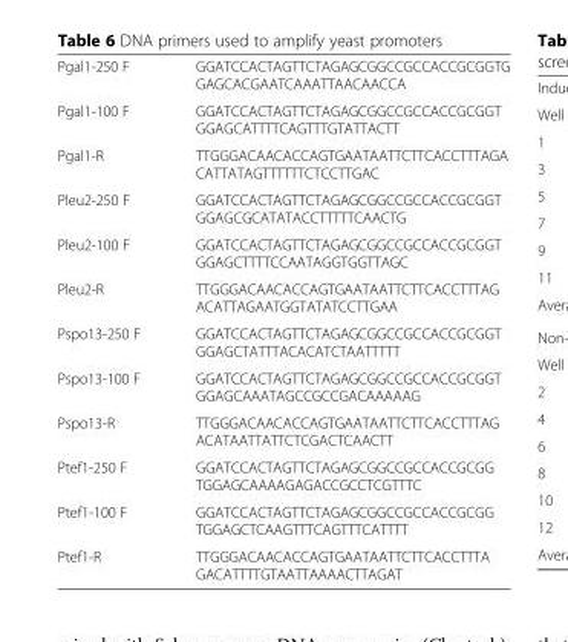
<table><tbody><tr><td>Pgal1-250 F</td><td>GGATCCACTAGTTCTAGAGCGGCCGCCACCGCGGTG GAGCACGAATCAAATTAACAACCA</td></tr><tr><td>Pgal1-100 F</td><td>GGATCCACTAGTTCTAGAGCGGCCGCCACCGCGGT GGAGCATTTTCAGTTTGTATTACTT</td></tr><tr><td>Pgal1-R</td><td>TTGGGACAACACCAGTGAATAATTCTTCACCTTTAGA CATTATAGTTTTTTCTCCTTGAC</td></tr><tr><td>Pleu2-250 F</td><td>GGATCCACTAGTTCTAGAGCGGCCGCCACCGCGGT GGAGCGCATATACCTTTTTCAACTG</td></tr><tr><td>Pleu2-100 F</td><td>GGATCCACTAGTTCTAGAGCGGCCGCCACCGCGGT GGAGCTTTTCCAATAGGTGGTTAGC</td></tr><tr><td>Pleu2-R</td><td>TTGGGACAACACCAGTGAATAATTCTTCACCTTTAG ACATTAGAATGGTATATCCTTGAA</td></tr><tr><td>Pspo13-250 F</td><td>GGATCCACTAGTTCTAGAGCGGCCGCCACCGCGGT GGAGCTATTTACACATCTAATTTTT</td></tr><tr><td>Pspo13-100 F</td><td>GGATCCACTAGTTCTAGAGCGGCCGCCACCGCGGT GGAGCAAATAGCCGCCGACAAAAAG</td></tr><tr><td>Pspo13-R</td><td>TTGGGACAACACCAGTGAATAATTCTTCACCTTTAG ACATAATTATTCTCGACTCAACTT</td></tr><tr><td>Ptef1-250 F</td><td>GGATCCACTAGTTCTAGAGCGGCCGCCACCGCGG TGGAGCAAAAGAGACCGCCTCGTTTC</td></tr><tr><td>Ptef1-100 F</td><td>GGATCCACTAGTTCTAGAGCGGCCGCCACCGCGG TGGAGCTCAAGTTTCAGTTTCATTTT</td></tr><tr><td>Ptef1-R</td><td>TTGGGACAACACCAGTGAATAATTCTTCACCTTTA GACATTTTGTAATTAAAACTTAGAT</td></tr></tbody></table>